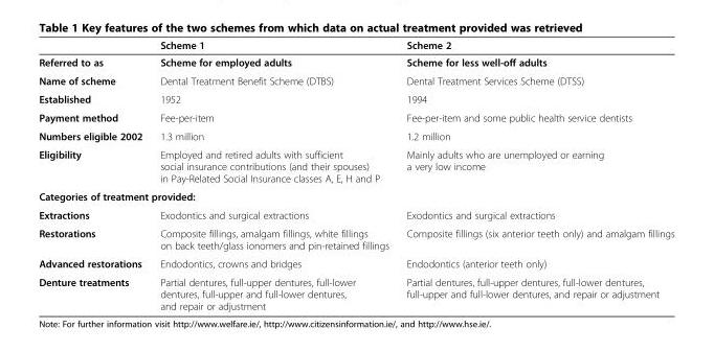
<table><thead><tr><td></td><td>Scheme 1</td><td>Scheme 2</td></tr></thead><tbody><tr><td>Referred to as</td><td>Scheme for employed adults</td><td>Scheme for less well-off adults</td></tr><tr><td>Name of scheme</td><td>Dental Treatment Benefit Scheme (DTBS)</td><td>Dental Treatment Services Scheme (DTSS)</td></tr><tr><td>Established</td><td>1952</td><td>1994</td></tr><tr><td>Payment method</td><td>Fee-per-item</td><td>Fee-per-item and some public health service dentists</td></tr><tr><td>Numbers eligible 2002</td><td>1.3 million</td><td>1.2 million</td></tr><tr><td>Eligibility</td><td>Employed and retired adults with sufficient social insurance contributions (and their spouses) in Pay-Related Social Insurance classes A, E, H and P</td><td>Mainly adults who are unemployed or earning a very low income</td></tr><tr><td colspan="3">Categories of treatment provided:</td></tr><tr><td>Extractions</td><td>Exodontics and surgical extractions</td><td>Exodontics and surgical extractions</td></tr><tr><td>Restorations</td><td>Composite fillings, amalgam fillings, white fillings on back teeth/glass ionomers and pin-retained fillings</td><td>Composite fillings (six anterior teeth only) and amalgam fillings</td></tr><tr><td>Advanced restorations</td><td>Endodontics, crowns and bridges</td><td>Endodontics (anterior teeth only)</td></tr><tr><td>Denture treatments</td><td>Partial dentures, full-upper dentures, full-lower dentures, full-upper and full-lower dentures, and repair or adjustment</td><td>Partial dentures, full-upper dentures, full-lower dentures, full-upper and full-lower dentures, and repair or adjustment</td></tr></tbody></table>